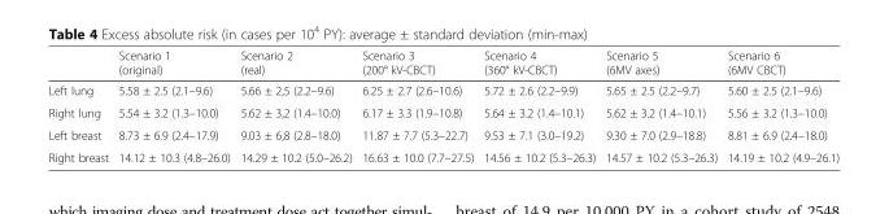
<table><thead><tr><td></td><td>Scenario 1 (original)</td><td>Scenario 2 (real)</td><td>Scenario 3 (200° kV-CBCT)</td><td>Scenario 4 (360° kV-CBCT)</td><td>Scenario 5 (6MV axes)</td><td>Scenario 6 (6MV CBCT)</td></tr></thead><tbody><tr><td>Left lung</td><td>5.58 ± 2.5 (2.1–9.6)</td><td>5.66 ± 2,5 (2.2–9.6)</td><td>6.25 ± 2.7 (2.6–10.6)</td><td>5.72 ± 2.6 (2.2–9.9)</td><td>5.65 ± 2.5 (2.2–9.7)</td><td>5.60 ± 2.5 (2.1–9.6)</td></tr><tr><td>Right lung</td><td>5.54 ± 3.2 (1.3–10.0)</td><td>5.62 ± 3,2 (1.4–10.0)</td><td>6.17 ± 3.3 (1.9–10.8)</td><td>5.64 ± 3.2 (1.4–10.1)</td><td>5.62 ± 3.2 (1.4–10.1)</td><td>5.56 ± 3.2 (1.3–10.0)</td></tr><tr><td>Left breast</td><td>8.73 ± 6.9 (2.4–17.9)</td><td>9.03 ± 6,8 (2.8–18.0)</td><td>11.87 ± 7.7 (5.3–22.7)</td><td>9.53 ± 7.1 (3.0–19.2)</td><td>9.30 ± 7.0 (2.9–18.8)</td><td>8.81 ± 6.9 (2.4–18.0)</td></tr><tr><td>Right breast</td><td>14.12 ± 10.3 (4.8–26.0)</td><td>14.29 ± 10.2 (5.0–26.2)</td><td>16.63 ± 10.0 (7.7–27.5)</td><td>14.56 ± 10.2 (5.3–26.3)</td><td>14.57 ± 10.2 (5.3–26.3)</td><td>14.19 ± 10.2 (4.9–26.1)</td></tr></tbody></table>